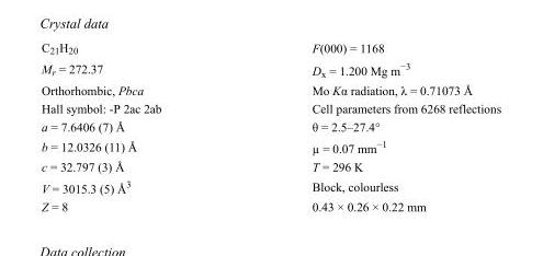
<table><tbody><tr><td>C<sub>21</sub>H<sub>20</sub></td><td>F(000) = 1168</td></tr><tr><td>M<sub>r</sub> = 272.37</td><td>D<sub>x</sub> = 1.200 Mg m<sup>−3</sup></td></tr><tr><td>Orthorhombic, Pbca</td><td>Mo Kα radiation, λ = 0.71073 Å</td></tr><tr><td>Hall symbol: -P 2ac 2ab</td><td>Cell parameters from 6268 reflections</td></tr><tr><td>a = 7.6406 (7) Å</td><td>θ = 2.5–27.4°</td></tr><tr><td>b = 12.0326 (11) Å</td><td>µ = 0.07 mm<sup>−1</sup></td></tr><tr><td>c = 32.797 (3) Å</td><td>T = 296 K</td></tr><tr><td>V = 3015.3 (5) Å<sup>3</sup></td><td>Block, colourless</td></tr><tr><td>Z = 8</td><td>0.43 × 0.26 × 0.22 mm</td></tr></tbody></table>